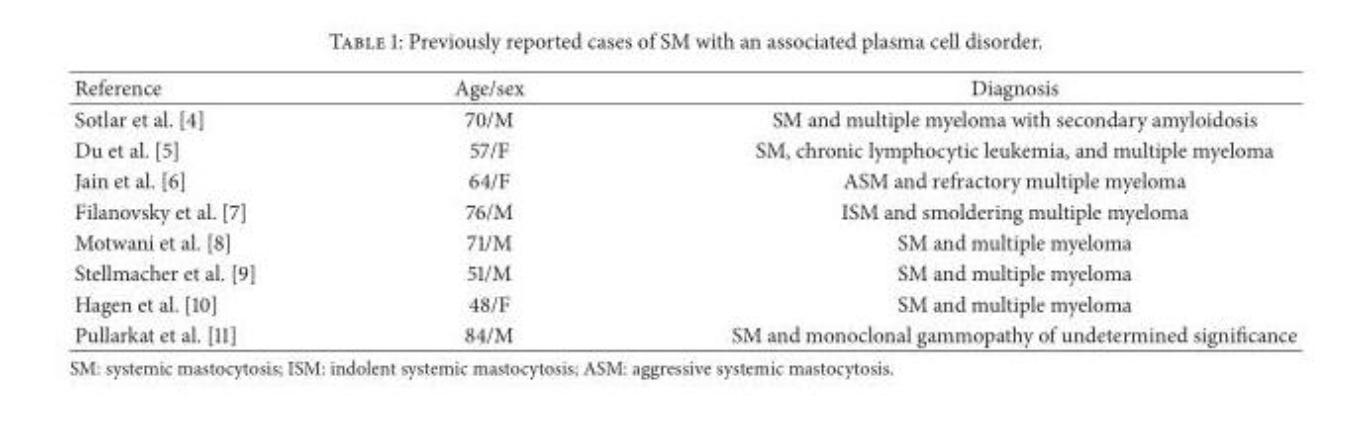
<table><thead><tr><td>Reference</td><td>Age/sex</td><td>Diagnosis</td></tr></thead><tbody><tr><td>Sotlar et al. [4]</td><td>70/M</td><td>SM and multiple myeloma with secondary amyloidosis</td></tr><tr><td>Du et al. [5]</td><td>57/F</td><td>SM, chronic lymphocytic leukemia, and multiple myeloma</td></tr><tr><td>Jain et al. [6]</td><td>64/F</td><td>ASM and refractory multiple myeloma</td></tr><tr><td>Filanovsky et al. [7]</td><td>76/M</td><td>ISM and smoldering multiple myeloma</td></tr><tr><td>Motwani et al. [8]</td><td>71/M</td><td>SM and multiple myeloma</td></tr><tr><td>Stellmacher et al. [9]</td><td>51/M</td><td>SM and multiple myeloma</td></tr><tr><td>Hagen et al. [10]</td><td>48/F</td><td>SM and multiple myeloma</td></tr><tr><td>Pullarkat et al. [11]</td><td>84/M</td><td>SM and monoclonal gammopathy of undetermined significance</td></tr></tbody></table>